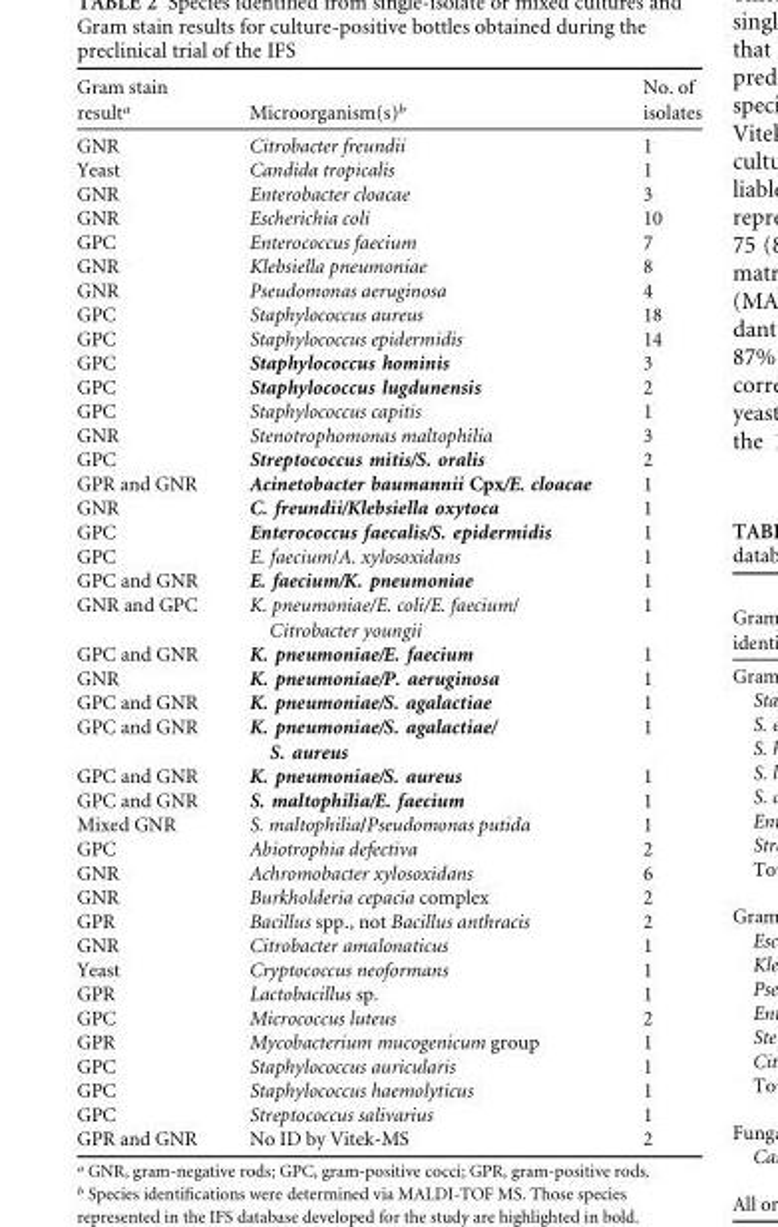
<table><thead><tr><td>Gram stain result<sup>a</sup></td><td>Microorganism(s)<sup>b</sup></td><td>No. of isolates</td></tr></thead><tbody><tr><td>GNR</td><td>Citrobacter freundii</td><td>1</td></tr><tr><td>Yeast</td><td>Candida tropicalis</td><td>1</td></tr><tr><td>GNR</td><td>Enterobacter cloacae</td><td>3</td></tr><tr><td>GNR</td><td>Escherichia coli</td><td>10</td></tr><tr><td>GPC</td><td>Enterococcus faecium</td><td>7</td></tr><tr><td>GNR</td><td>Klebsiella pneumoniae</td><td>8</td></tr><tr><td>GNR</td><td>Pseudomonas aeruginosa</td><td>4</td></tr><tr><td>GPC</td><td>Staphylococcus aureus</td><td>18</td></tr><tr><td>GPC</td><td>Staphylococcus epidermidis</td><td>14</td></tr><tr><td>GPC</td><td>Staphylococcus hominis</td><td>3</td></tr><tr><td>GPC</td><td>Staphylococcus lugdunensis</td><td>2</td></tr><tr><td>GPC</td><td>Staphylococcus capitis</td><td>1</td></tr><tr><td>GNR</td><td>Stenotrophomonas maltophilia</td><td>3</td></tr><tr><td>GPC</td><td>Streptococcus mitis/S. oralis</td><td>2</td></tr><tr><td>GPR and GNR</td><td>Acinetobacter baumannii Cpx/E. cloacae</td><td>1</td></tr><tr><td>GNR</td><td>C. freundii/Klebsiella oxytoca</td><td>1</td></tr><tr><td>GPC</td><td>Enterococcus faecalis/S. epidermidis</td><td>1</td></tr><tr><td>GPC</td><td>E. faecium/A. xylosoxidans</td><td>1</td></tr><tr><td>GPC and GNR</td><td>E. faecium/K. pneumoniae</td><td>1</td></tr><tr><td>GNR and GPC</td><td>K. pneumoniae/E. coli/E. faecium/ Citrobacter youngii</td><td>1</td></tr><tr><td>GPC and GNR</td><td>K. pneumoniae/E. faecium</td><td>1</td></tr><tr><td>GNR</td><td>K. pneumoniae/P. aeruginosa</td><td>1</td></tr><tr><td>GPC and GNR</td><td>K. pneumoniae/S. agalactiae</td><td>1</td></tr><tr><td>GPC and GNR</td><td>K. pneumoniae/S. agalactiae/ S. aureus</td><td>1</td></tr><tr><td>GPC and GNR</td><td>K. pneumoniae/S. aureus</td><td>1</td></tr><tr><td>GPC and GNR</td><td>S. maltophilia/E. faecium</td><td>1</td></tr><tr><td>Mixed GNR</td><td>S. maltophilia/Pseudomonas putida</td><td>1</td></tr><tr><td>GPC</td><td>Abiotrophia defectiva</td><td>2</td></tr><tr><td>GNR</td><td>Achromobacter xylosoxidans</td><td>6</td></tr><tr><td>GNR</td><td>Burkholderia cepacia complex</td><td>2</td></tr><tr><td>GPR</td><td>Bacillus spp., not Bacillus anthracis</td><td>2</td></tr><tr><td>GNR</td><td>Citrobacter amalonaticus</td><td>1</td></tr><tr><td>Yeast</td><td>Cryptococcus neoformans</td><td>1</td></tr><tr><td>GPR</td><td>Lactobacillus sp.</td><td>1</td></tr><tr><td>GPC</td><td>Micrococcus luteus</td><td>2</td></tr><tr><td>GPR</td><td>Mycobacterium mucogenicum group</td><td>1</td></tr><tr><td>GPC</td><td>Staphylococcus auricularis</td><td>1</td></tr><tr><td>GPC</td><td>Staphylococcus haemolyticus</td><td>1</td></tr><tr><td>GPC</td><td>Streptococcus salivarius</td><td>1</td></tr><tr><td>GPR and GNR</td><td>No ID by Vitek-MS</td><td>2</td></tr></tbody></table>